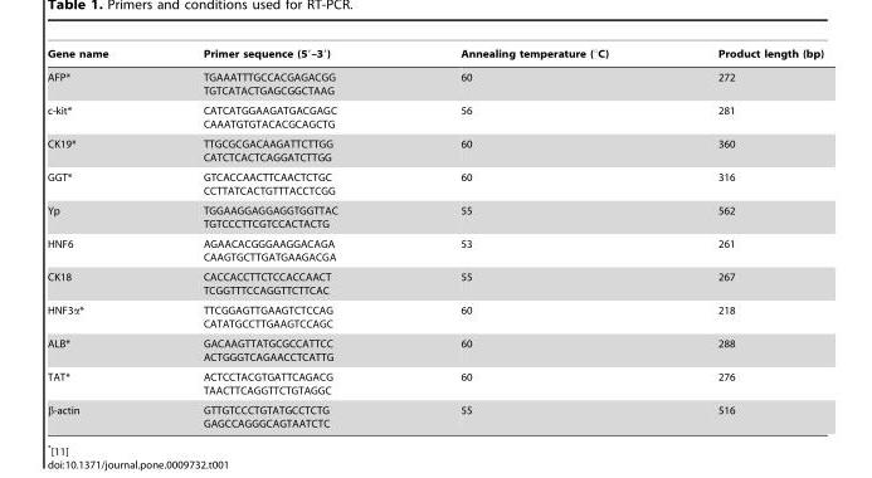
<table><thead><tr><td>Gene name</td><td>Primer sequence (5′–3′)</td><td>Annealing temperature (°C)</td><td>Product length (bp)</td></tr></thead><tbody><tr><td>AFP*</td><td>TGAAATTTGCCACGAGACGG TGTCATACTGAGCGGCTAAG</td><td>60</td><td>272</td></tr><tr><td>c-kit*</td><td>CATCATGGAAGATGACGAGC CAAATGTGTACACGCAGCTG</td><td>56</td><td>281</td></tr><tr><td>CK19*</td><td>TTGCGCGACAAGATTCTTGG CATCTCACTCAGGATCTTGG</td><td>60</td><td>360</td></tr><tr><td>GGT*</td><td>GTCACCAACTTCAACTCTGC CCTTATCACTGTTTACCTCGG</td><td>60</td><td>316</td></tr><tr><td>Yp</td><td>TGGAAGGAGGAGGTGGTTAC TGTCCCTTCGTCCACTACTG</td><td>55</td><td>562</td></tr><tr><td>HNF6</td><td>AGAACACGGGAAGGACAGA CAAGTGCTTGATGAAGACGA</td><td>53</td><td>261</td></tr><tr><td>CK18</td><td>CACCACCTTCTCCACCAACT TCGGTTTCCAGGTTCTTCAC</td><td>55</td><td>267</td></tr><tr><td>HNF3α*</td><td>TTCGGAGTTGAAGTCTCCAG CATATGCCTTGAAGTCCAGC</td><td>60</td><td>218</td></tr><tr><td>ALB*</td><td>GACAAGTTATGCGCCATTCC ACTGGGTCAGAACCTCATTG</td><td>60</td><td>288</td></tr><tr><td>TAT*</td><td>ACTCCTACGTGATTCAGACG TAACTTCAGGTTCTGTAGGC</td><td>60</td><td>276</td></tr><tr><td>β-actin</td><td>GTTGTCCCTGTATGCCTCTG GAGCCAGGGCAGTAATCTC</td><td>55</td><td>516</td></tr></tbody></table>